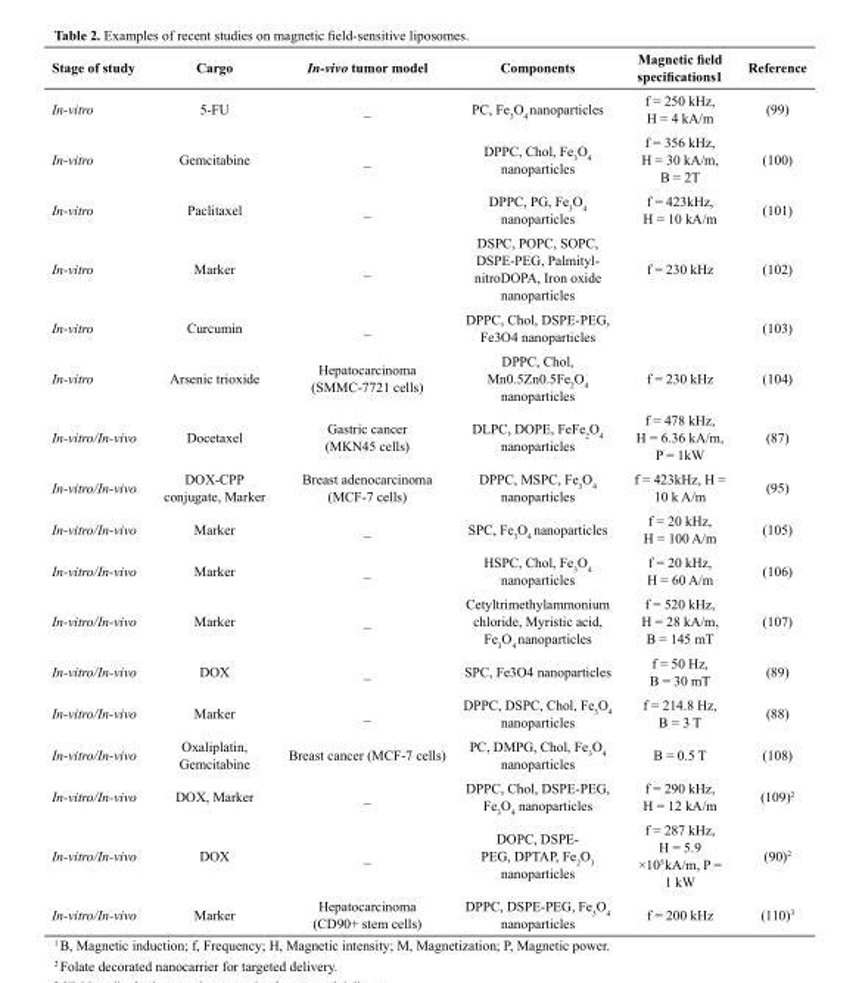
<table><thead><tr><td>Stage of study</td><td>Cargo</td><td>In-vivo tumor model</td><td>Components</td><td>Magnetic field specifications<sup>1</sup></td><td>Reference</td></tr></thead><tbody><tr><td>In-vitro</td><td>5-FU</td><td>_</td><td>PC, Fe<sub>3</sub>O<sub>4</sub> nanoparticles</td><td>f = 250 kHz, H = 4 kA/m</td><td>(99)</td></tr><tr><td>In-vitro</td><td>Gemcitabine</td><td>_</td><td>DPPC, Chol, Fe<sub>3</sub>O<sub>4</sub> nanoparticles</td><td>f = 356 kHz, H = 30 kA/m, B = 2T</td><td>(100)</td></tr><tr><td>In-vitro</td><td>Paclitaxel</td><td>_</td><td>DPPC, PG, Fe<sub>3</sub>O<sub>4</sub> nanoparticles</td><td>f = 423kHz, H = 10 kA/m</td><td>(101)</td></tr><tr><td>In-vitro</td><td>Marker</td><td>_</td><td>DSPC, POPC, SOPC, DSPE-PEG, Palmityl- nitroDOPA, Iron oxide nanoparticles</td><td>f = 230 kHz</td><td>(102)</td></tr><tr><td>In-vitro</td><td>Curcumin</td><td>_</td><td>DPPC, Chol, DSPE-PEG, Fe<sub>3</sub>O<sub>4</sub> nanoparticles</td><td></td><td>(103)</td></tr><tr><td>In-vitro</td><td>Arsenic trioxide</td><td>Hepatocarcinoma (SMMC-7721 cells)</td><td>DPPC, Chol, Mn0.5Zn0.5Fe<sub>2</sub>O<sub>4</sub> nanoparticles</td><td>f = 230 kHz</td><td>(104)</td></tr><tr><td>In-vitro/In-vivo</td><td>Docetaxel</td><td>Gastric cancer (MKN45 cells)</td><td>DLPC, DOPE, FeFe<sub>2</sub>O<sub>4</sub> nanoparticles</td><td>f = 478 kHz, H = 6.36 kA/m, P = 1kW</td><td>(87)</td></tr><tr><td>In-vitro/In-vivo</td><td>DOX-CPP conjugate, Marker</td><td>Breast adenocarcinoma (MCF-7 cells)</td><td>DPPC, MSPC, Fe<sub>3</sub>O<sub>4</sub> nanoparticles</td><td>f = 423kHz, H = 10 k A/m</td><td>(95)</td></tr><tr><td>In-vitro/In-vivo</td><td>Marker</td><td>_</td><td>SPC, Fe<sub>3</sub>O<sub>4</sub> nanoparticles</td><td>f = 20 kHz, H = 100 A/m</td><td>(105)</td></tr><tr><td>In-vitro/In-vivo</td><td>Marker</td><td>_</td><td>HSPC, Chol, Fe<sub>3</sub>O<sub>4</sub> nanoparticles</td><td>f = 20 kHz, H = 60 A/m</td><td>(106)</td></tr><tr><td>In-vitro/In-vivo</td><td>Marker</td><td>_</td><td>Cetyltrimethylammonium chloride, Myristic acid, Fe<sub>3</sub>O<sub>4</sub> nanoparticles</td><td>f = 520 kHz, H = 28 kA/m, B = 145 mT</td><td>(107)</td></tr><tr><td>In-vitro/In-vivo</td><td>DOX</td><td>_</td><td>SPC, Fe<sub>3</sub>O<sub>4</sub> nanoparticles</td><td>f = 50 Hz, B = 30 mT</td><td>(89)</td></tr><tr><td>In-vitro/In-vivo</td><td>Marker</td><td>_</td><td>DPPC, DSPC, Chol, Fe<sub>3</sub>O<sub>4</sub> nanoparticles</td><td>f = 214.8 Hz, B = 3 T</td><td>(88)</td></tr><tr><td>In-vitro/In-vivo</td><td>Oxaliplatin, Gemcitabine</td><td>Breast cancer (MCF-7 cells)</td><td>PC, DMPG, Chol, Fe<sub>3</sub>O<sub>4</sub> nanoparticles</td><td>B = 0.5 T</td><td>(108)</td></tr><tr><td>In-vitro/In-vivo</td><td>DOX, Marker</td><td>_</td><td>DPPC, Chol, DSPE-PEG, Fe<sub>3</sub>O<sub>4</sub> nanoparticles</td><td>f = 290 kHz, H = 12 kA/m</td><td>(109)<sup>2</sup></td></tr><tr><td>In-vitro/In-vivo</td><td>DOX</td><td>_</td><td>DOPC, DSPE- PEG, DPTAP, Fe<sub>2</sub>O<sub>3</sub> nanoparticles</td><td>f = 287 kHz, H = 5.9 ×10<sup>5</sup>kA/m, P = 1 kW</td><td>(90)<sup>2</sup></td></tr><tr><td>In-vitro/In-vivo</td><td>Marker</td><td>Hepatocarcinoma (CD90+ stem cells)</td><td>DPPC, DSPE-PEG, Fe<sub>3</sub>O<sub>4</sub> nanoparticles</td><td>f = 200 kHz</td><td>(110)<sup>3</sup></td></tr></tbody></table>